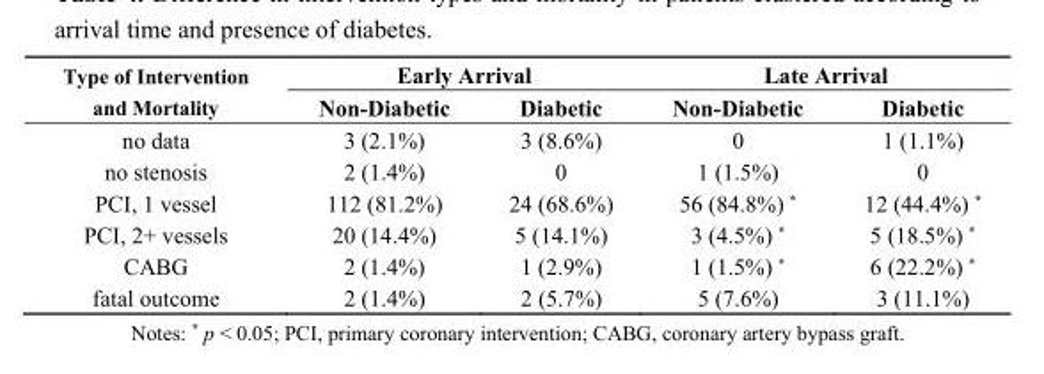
<table><thead><tr><td rowspan="2">Type of Intervention and Mortality</td><td colspan="2">Early Arrival</td><td colspan="2">Late Arrival</td></tr><tr><td>Non-Diabetic</td><td>Diabetic</td><td>Non-Diabetic</td><td>Diabetic</td></tr></thead><tbody><tr><td>no data</td><td>3 (2.1%)</td><td>3 (8.6%)</td><td>0</td><td>1 (1.1%)</td></tr><tr><td>no stenosis</td><td>2 (1.4%)</td><td>0</td><td>1 (1.5%)</td><td>0</td></tr><tr><td>PCI, 1 vessel</td><td>112 (81.2%)</td><td>24 (68.6%)</td><td>56 (84.8%) *</td><td>12 (44.4%) *</td></tr><tr><td>PCI, 2+ vessels</td><td>20 (14.4%)</td><td>5 (14.1%)</td><td>3 (4.5%) *</td><td>5 (18.5%) *</td></tr><tr><td>CABG</td><td>2 (1.4%)</td><td>1 (2.9%)</td><td>1 (1.5%) *</td><td>6 (22.2%) *</td></tr><tr><td>fatal outcome</td><td>2 (1.4%)</td><td>2 (5.7%)</td><td>5 (7.6%)</td><td>3 (11.1%)</td></tr></tbody></table>